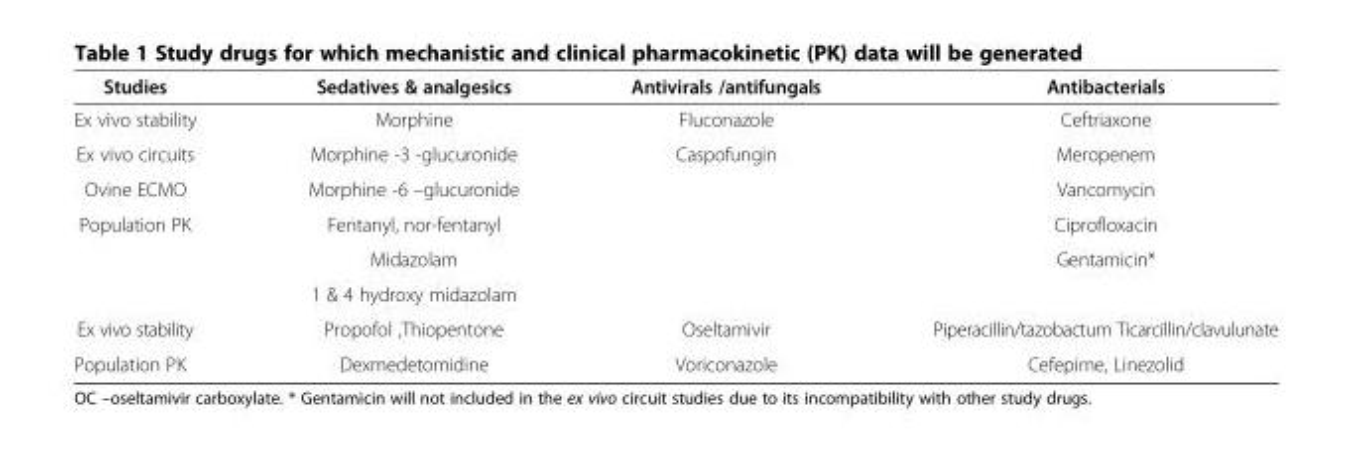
<table><thead><tr><td>Studies</td><td>Sedatives &amp; analgesics</td><td>Antivirals /antifungals</td><td>Antibacterials</td></tr></thead><tbody><tr><td>Ex vivo stability</td><td>Morphine</td><td>Fluconazole</td><td>Ceftriaxone</td></tr><tr><td>Ex vivo circuits</td><td>Morphine -3 -glucuronide</td><td rowspan="5">Caspofungin</td><td>Meropenem</td></tr><tr><td>Ovine ECMO</td><td>Morphine -6 –glucuronide</td><td>Vancomycin</td></tr><tr><td rowspan="3">Population PK</td><td>Fentanyl, nor-fentanyl</td><td>Ciprofloxacin</td></tr><tr><td>Midazolam</td><td rowspan="2">Gentamicin*</td></tr><tr><td>1 &amp; 4 hydroxy midazolam</td></tr><tr><td>Ex vivo stability</td><td>Propofol ,Thiopentone</td><td>Oseltamivir</td><td>Piperacillin/tazobactum Ticarcillin/clavulunate</td></tr><tr><td>Population PK</td><td>Dexmedetomidine</td><td>Voriconazole</td><td>Cefepime, Linezolid</td></tr></tbody></table>